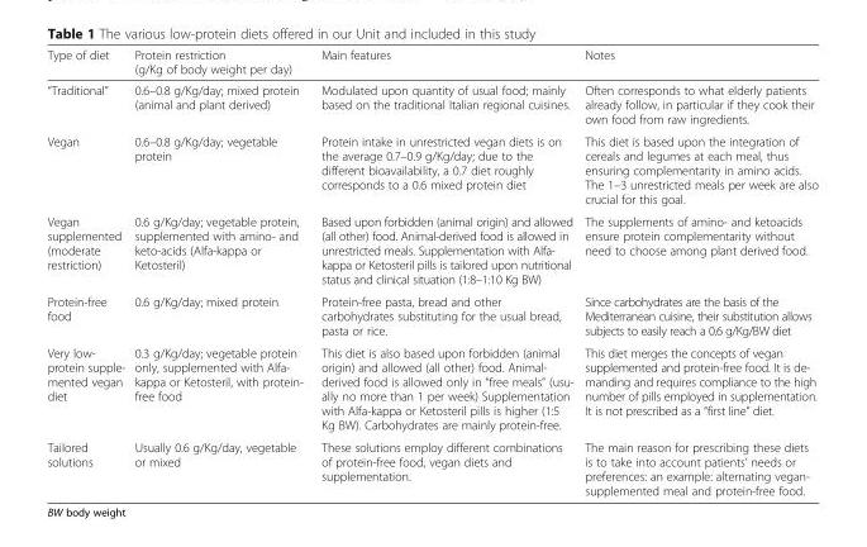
<table><thead><tr><td>Type of diet</td><td>Protein restriction (g/Kg of body weight per day)</td><td>Main features</td><td>Notes</td></tr></thead><tbody><tr><td>“Traditional”</td><td>0.6–0.8 g/Kg/day; mixed protein (animal and plant derived)</td><td>Modulated upon quantity of usual food; mainly based on the traditional Italian regional cuisines.</td><td>Often corresponds to what elderly patients already follow, in particular if they cook their own food from raw ingredients.</td></tr><tr><td>Vegan</td><td>0.6–0.8 g/Kg/day; vegetable protein</td><td>Protein intake in unrestricted vegan diets is on the average 0.7–0.9 g/Kg/day; due to the different bioavailability, a 0.7 diet roughly corresponds to a 0.6 mixed protein diet</td><td>This diet is based upon the integration of cereals and legumes at each meal, thus ensuring complementarity in amino acids. The 1–3 unrestricted meals per week are also crucial for this goal.</td></tr><tr><td>Vegan supplemented (moderate restriction)</td><td>0.6 g/Kg/day; vegetable protein, supplemented with amino- and keto-acids (Alfa-kappa or Ketosteril)</td><td>Based upon forbidden (animal origin) and allowed (all other) food. Animal-derived food is allowed in unrestricted meals. Supplementation with Alfa- kappa or Ketosteril pills is tailored upon nutritional status and clinical situation (1:8–1:10 Kg BW)</td><td>The supplements of amino- and ketoacids ensure protein complementarity without need to choose among plant derived food.</td></tr><tr><td>Protein-free food</td><td>0.6 g/Kg/day; mixed protein</td><td>Protein-free pasta, bread and other carbohydrates substituting for the usual bread, pasta or rice.</td><td>Since carbohydrates are the basis of the Mediterranean cuisine, their substitution allows subjects to easily reach a 0.6 g/Kg/BW diet</td></tr><tr><td>Very low- protein supple- mented vegan diet</td><td>0.3 g/Kg/day; vegetable protein only, supplemented with Alfa- kappa or Ketosteril, with protein- free food</td><td>This diet is also based upon forbidden (animal origin) and allowed (all other) food. Animal- derived food is allowed only in “free meals” (usu- ally no more than 1 per week) Supplementation with Alfa-kappa or Ketosteril pills is higher (1:5 Kg BW). Carbohydrates are mainly protein-free.</td><td>This diet merges the concepts of vegan supplemented and protein-free food. It is de- manding and requires compliance to the high number of pills employed in supplementation. It is not prescribed as a “first line” diet.</td></tr><tr><td>Tailored solutions</td><td>Usually 0.6 g/Kg/day, vegetable or mixed</td><td>These solutions employ different combinations of protein-free food, vegan diets and supplementation.</td><td>The main reason for prescribing these diets is to take into account patients’ needs or preferences: an example: alternating vegan- supplemented meal and protein-free food.</td></tr></tbody></table>